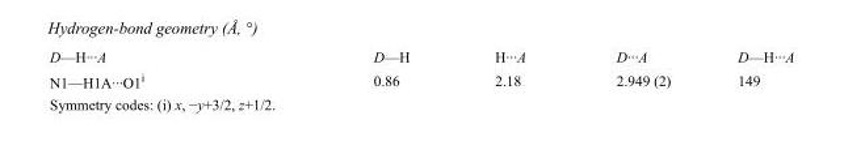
<table><tbody><tr><td>D—H···A</td><td>D—H</td><td>H···A</td><td>D···A</td><td>D—H···A</td></tr><tr><td>N1—H1A···O1<sup>i</sup></td><td>0.86</td><td>2.18</td><td>2.949 (2)</td><td>149</td></tr></tbody></table>